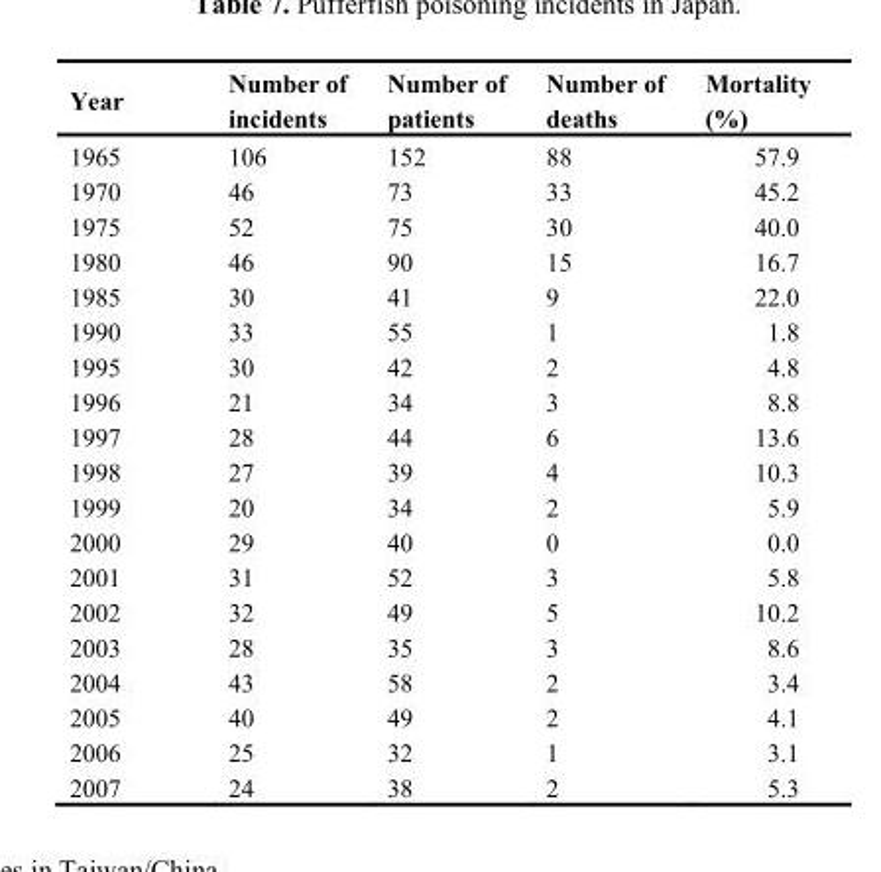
<table><thead><tr><td>Year</td><td>Number of incidents</td><td>Number of patients</td><td>Number of deaths</td><td>Mortality (%)</td></tr></thead><tbody><tr><td>1965</td><td>106</td><td>152</td><td>88</td><td>57.9</td></tr><tr><td>1970</td><td>46</td><td>73</td><td>33</td><td>45.2</td></tr><tr><td>1975</td><td>52</td><td>75</td><td>30</td><td>40.0</td></tr><tr><td>1980</td><td>46</td><td>90</td><td>15</td><td>16.7</td></tr><tr><td>1985</td><td>30</td><td>41</td><td>9</td><td>22.0</td></tr><tr><td>1990</td><td>33</td><td>55</td><td>1</td><td>1.8</td></tr><tr><td>1995</td><td>30</td><td>42</td><td>2</td><td>4.8</td></tr><tr><td>1996</td><td>21</td><td>34</td><td>3</td><td>8.8</td></tr><tr><td>1997</td><td>28</td><td>44</td><td>6</td><td>13.6</td></tr><tr><td>1998</td><td>27</td><td>39</td><td>4</td><td>10.3</td></tr><tr><td>1999</td><td>20</td><td>34</td><td>2</td><td>5.9</td></tr><tr><td>2000</td><td>29</td><td>40</td><td>0</td><td>0.0</td></tr><tr><td>2001</td><td>31</td><td>52</td><td>3</td><td>5.8</td></tr><tr><td>2002</td><td>32</td><td>49</td><td>5</td><td>10.2</td></tr><tr><td>2003</td><td>28</td><td>35</td><td>3</td><td>8.6</td></tr><tr><td>2004</td><td>43</td><td>58</td><td>2</td><td>3.4</td></tr><tr><td>2005</td><td>40</td><td>49</td><td>2</td><td>4.1</td></tr><tr><td>2006</td><td>25</td><td>32</td><td>1</td><td>3.1</td></tr><tr><td>2007</td><td>24</td><td>38</td><td>2</td><td>5.3</td></tr></tbody></table>